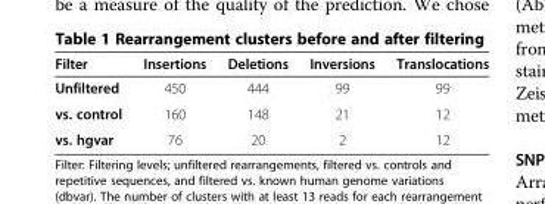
<table><thead><tr><td>Filter</td><td>Insertions</td><td>Deletions</td><td>Inversions</td><td>Translocations</td></tr></thead><tbody><tr><td>Unfiltered</td><td>450</td><td>444</td><td>99</td><td>99</td></tr><tr><td>vs. control</td><td>160</td><td>148</td><td>21</td><td>12</td></tr><tr><td>vs. hgvar</td><td>76</td><td>20</td><td>2</td><td>12</td></tr></tbody></table>